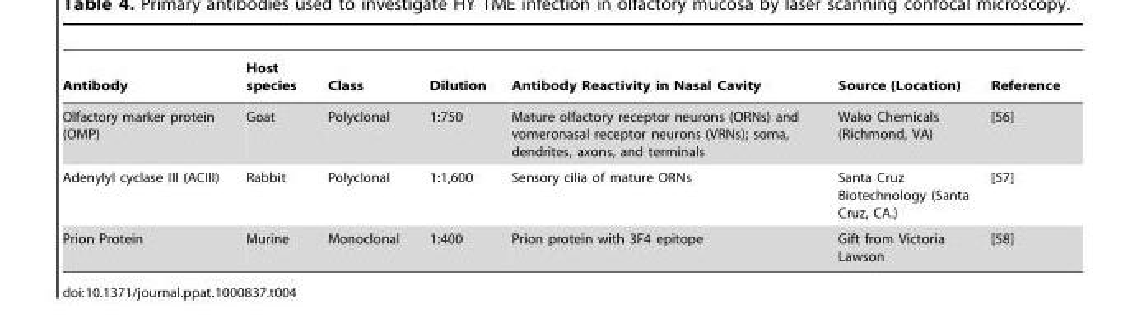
<table><thead><tr><td>Antibody</td><td>Host species</td><td>Class</td><td>Dilution</td><td>Antibody Reactivity in Nasal Cavity</td><td>Source (Location)</td><td>Reference</td></tr></thead><tbody><tr><td>Olfactory marker protein (OMP)</td><td>Goat</td><td>Polyclonal</td><td>1:750</td><td>Mature olfactory receptor neurons (ORNs) and vomeronasal receptor neurons (VRNs); soma, dendrites, axons, and terminals</td><td>Wako Chemicals (Richmond, VA)</td><td>[56]</td></tr><tr><td>Adenylyl cyclase III (ACIII)</td><td>Rabbit</td><td>Polyclonal</td><td>1:1,600</td><td>Sensory cilia of mature ORNs</td><td>Santa Cruz Biotechnology (Santa Cruz, CA.)</td><td>[57]</td></tr><tr><td>Prion Protein</td><td>Murine</td><td>Monoclonal</td><td>1:400</td><td>Prion protein with 3F4 epitope</td><td>Gift from Victoria Lawson</td><td>[58]</td></tr></tbody></table>